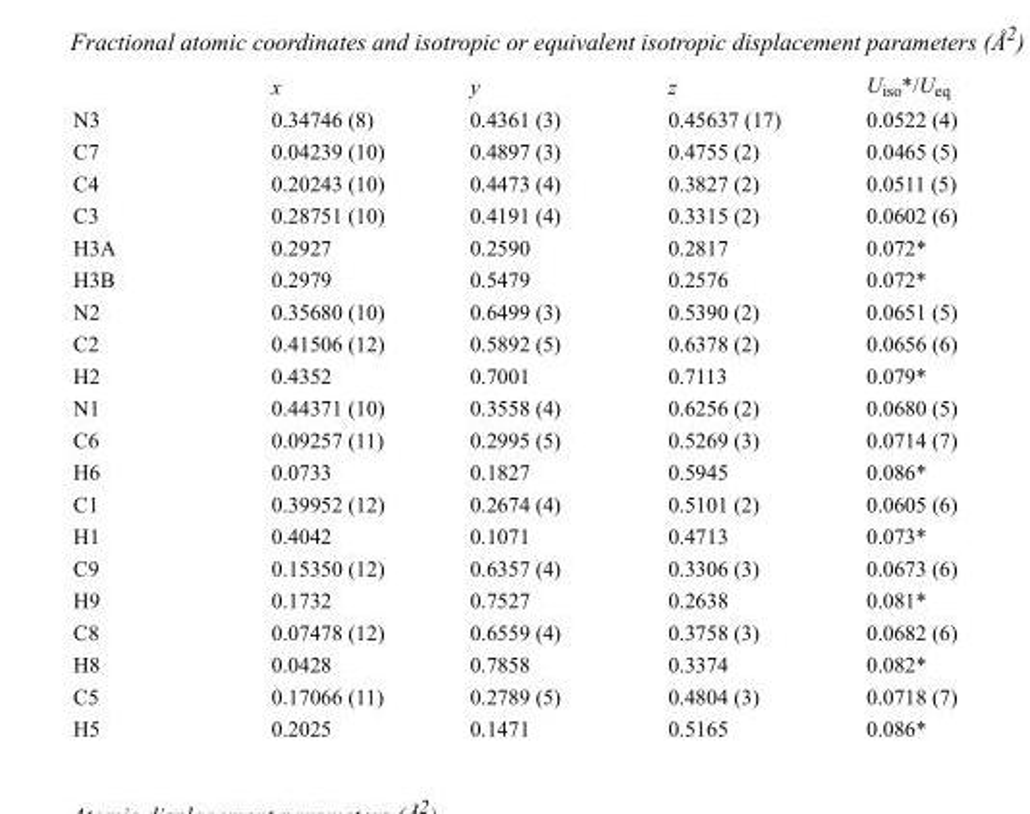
<table><thead><tr><td></td><td>x</td><td>y</td><td>z</td><td>U<sub>iso</sub>*/U<sub>eq</sub></td></tr></thead><tbody><tr><td>N3</td><td>0.34746 (8)</td><td>0.4361 (3)</td><td>0.45637 (17)</td><td>0.0522 (4)</td></tr><tr><td>C7</td><td>0.04239 (10)</td><td>0.4897 (3)</td><td>0.4755 (2)</td><td>0.0465 (5)</td></tr><tr><td>C4</td><td>0.20243 (10)</td><td>0.4473 (4)</td><td>0.3827 (2)</td><td>0.0511 (5)</td></tr><tr><td>C3</td><td>0.28751 (10)</td><td>0.4191 (4)</td><td>0.3315 (2)</td><td>0.0602 (6)</td></tr><tr><td>H3A</td><td>0.2927</td><td>0.2590</td><td>0.2817</td><td>0.072*</td></tr><tr><td>H3B</td><td>0.2979</td><td>0.5479</td><td>0.2576</td><td>0.072*</td></tr><tr><td>N2</td><td>0.35680 (10)</td><td>0.6499 (3)</td><td>0.5390 (2)</td><td>0.0651 (5)</td></tr><tr><td>C2</td><td>0.41506 (12)</td><td>0.5892 (5)</td><td>0.6378 (2)</td><td>0.0656 (6)</td></tr><tr><td>H2</td><td>0.4352</td><td>0.7001</td><td>0.7113</td><td>0.079*</td></tr><tr><td>N1</td><td>0.44371 (10)</td><td>0.3558 (4)</td><td>0.6256 (2)</td><td>0.0680 (5)</td></tr><tr><td>C6</td><td>0.09257 (11)</td><td>0.2995 (5)</td><td>0.5269 (3)</td><td>0.0714 (7)</td></tr><tr><td>H6</td><td>0.0733</td><td>0.1827</td><td>0.5945</td><td>0.086*</td></tr><tr><td>C1</td><td>0.39952 (12)</td><td>0.2674 (4)</td><td>0.5101 (2)</td><td>0.0605 (6)</td></tr><tr><td>H1</td><td>0.4042</td><td>0.1071</td><td>0.4713</td><td>0.073*</td></tr><tr><td>C9</td><td>0.15350 (12)</td><td>0.6357 (4)</td><td>0.3306 (3)</td><td>0.0673 (6)</td></tr><tr><td>H9</td><td>0.1732</td><td>0.7527</td><td>0.2638</td><td>0.081*</td></tr><tr><td>C8</td><td>0.07478 (12)</td><td>0.6559 (4)</td><td>0.3758 (3)</td><td>0.0682 (6)</td></tr><tr><td>H8</td><td>0.0428</td><td>0.7858</td><td>0.3374</td><td>0.082*</td></tr><tr><td>C5</td><td>0.17066 (11)</td><td>0.2789 (5)</td><td>0.4804 (3)</td><td>0.0718 (7)</td></tr><tr><td>H5</td><td>0.2025</td><td>0.1471</td><td>0.5165</td><td>0.086*</td></tr></tbody></table>